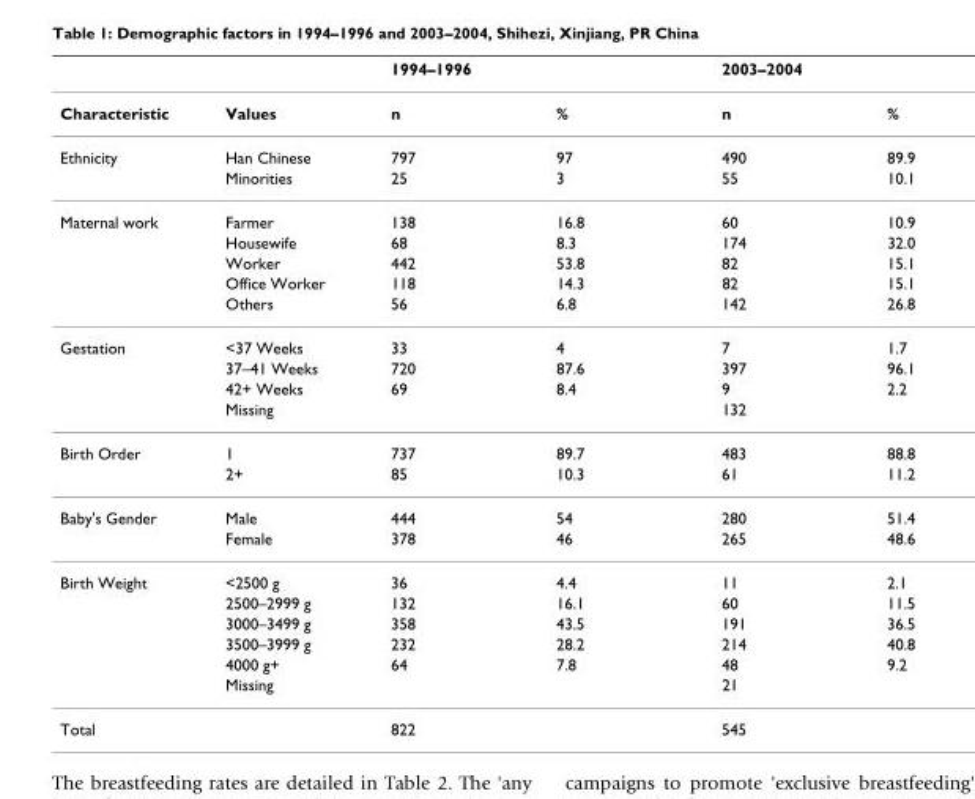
<table><thead><tr><td rowspan="2">Characteristic</td><td rowspan="2">Values</td><td colspan="2">1994–1996</td><td colspan="2">2003–2004</td></tr><tr><td>n</td><td>%</td><td>n</td><td>%</td></tr></thead><tbody><tr><td rowspan="2">Ethnicity</td><td>Han Chinese</td><td>797</td><td>97</td><td>490</td><td>89.9</td></tr><tr><td>Minorities</td><td>25</td><td>3</td><td>55</td><td>10.1</td></tr><tr><td rowspan="5">Maternal work</td><td>Farmer</td><td>138</td><td>16.8</td><td>60</td><td>10.9</td></tr><tr><td>Housewife</td><td>68</td><td>8.3</td><td>174</td><td>32.0</td></tr><tr><td>Worker</td><td>442</td><td>53.8</td><td>82</td><td>15.1</td></tr><tr><td>Office Worker</td><td>118</td><td>14.3</td><td>82</td><td>15.1</td></tr><tr><td>Others</td><td>56</td><td>6.8</td><td>142</td><td>26.8</td></tr><tr><td rowspan="4">Gestation</td><td>&lt;37 Weeks</td><td>33</td><td>4</td><td>7</td><td>1.7</td></tr><tr><td>37–41 Weeks</td><td>720</td><td>87.6</td><td>397</td><td>96.1</td></tr><tr><td>42+ Weeks</td><td>69</td><td>8.4</td><td>9</td><td>2.2</td></tr><tr><td>Missing</td><td></td><td></td><td>132</td><td></td></tr><tr><td rowspan="2">Birth Order</td><td>1</td><td>737</td><td>89.7</td><td>483</td><td>88.8</td></tr><tr><td>2+</td><td>85</td><td>10.3</td><td>61</td><td>11.2</td></tr><tr><td rowspan="2">Baby&#x27;s Gender</td><td>Male</td><td>444</td><td>54</td><td>280</td><td>51.4</td></tr><tr><td>Female</td><td>378</td><td>46</td><td>265</td><td>48.6</td></tr><tr><td rowspan="6">Birth Weight</td><td>&lt;2500 g</td><td>36</td><td>4.4</td><td>11</td><td>2.1</td></tr><tr><td>2500–2999 g</td><td>132</td><td>16.1</td><td>60</td><td>11.5</td></tr><tr><td>3000–3499 g</td><td>358</td><td>43.5</td><td>191</td><td>36.5</td></tr><tr><td>3500–3999 g</td><td>232</td><td>28.2</td><td>214</td><td>40.8</td></tr><tr><td>4000 g+</td><td>64</td><td>7.8</td><td>48</td><td>9.2</td></tr><tr><td>Missing</td><td></td><td></td><td>21</td><td></td></tr><tr><td>Total</td><td></td><td>822</td><td></td><td>545</td><td></td></tr></tbody></table>